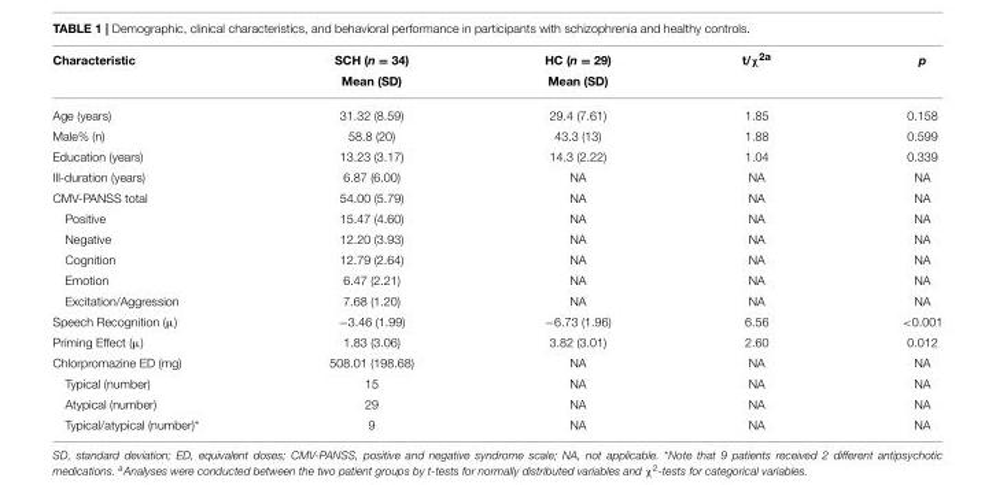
<table><thead><tr><td rowspan="2">Characteristic</td><td rowspan="2">SCH (n = 34) Mean (SD)</td><td rowspan="2">HC (n = 29) Mean (SD)</td><td rowspan="2">t/χ<sup>2a</sup></td><td rowspan="2">p</td></tr><tr></tr></thead><tbody><tr><td>Age (years)</td><td>31.32 (8.59)</td><td>29.4 (7.61)</td><td>1.85</td><td>0.158</td></tr><tr><td>Male% (n)</td><td>58.8 (20)</td><td>43.3 (13)</td><td>1.88</td><td>0.599</td></tr><tr><td>Education (years)</td><td>13.23 (3.17)</td><td>14.3 (2.22)</td><td>1.04</td><td>0.339</td></tr><tr><td>Ill-duration (years)</td><td>6.87 (6.00)</td><td>NA</td><td>NA</td><td>NA</td></tr><tr><td>CMV-PANSS total</td><td>54.00 (5.79)</td><td>NA</td><td>NA</td><td>NA</td></tr><tr><td>Positive</td><td>15.47 (4.60)</td><td>NA</td><td>NA</td><td>NA</td></tr><tr><td>Negative</td><td>12.20 (3.93)</td><td>NA</td><td>NA</td><td>NA</td></tr><tr><td>Cognition</td><td>12.79 (2.64)</td><td>NA</td><td>NA</td><td>NA</td></tr><tr><td>Emotion</td><td>6.47 (2.21)</td><td>NA</td><td>NA</td><td>NA</td></tr><tr><td>Excitation/Aggression</td><td>7.68 (1.20)</td><td>NA</td><td>NA</td><td>NA</td></tr><tr><td>Speech Recognition (µ)</td><td>−3.46 (1.99)</td><td>−6.73 (1.96)</td><td>6.56</td><td>&lt;0.001</td></tr><tr><td>Priming Effect (µ)</td><td>1.83 (3.06)</td><td>3.82 (3.01)</td><td>2.60</td><td>0.012</td></tr><tr><td>Chlorpromazine ED (mg)</td><td>508.01 (198.68)</td><td>NA</td><td>NA</td><td>NA</td></tr><tr><td>Typical (number)</td><td>15</td><td>NA</td><td>NA</td><td>NA</td></tr><tr><td>Atypical (number)</td><td>29</td><td>NA</td><td>NA</td><td>NA</td></tr><tr><td>Typical/atypical (number)*</td><td>9</td><td>NA</td><td>NA</td><td>NA</td></tr></tbody></table>